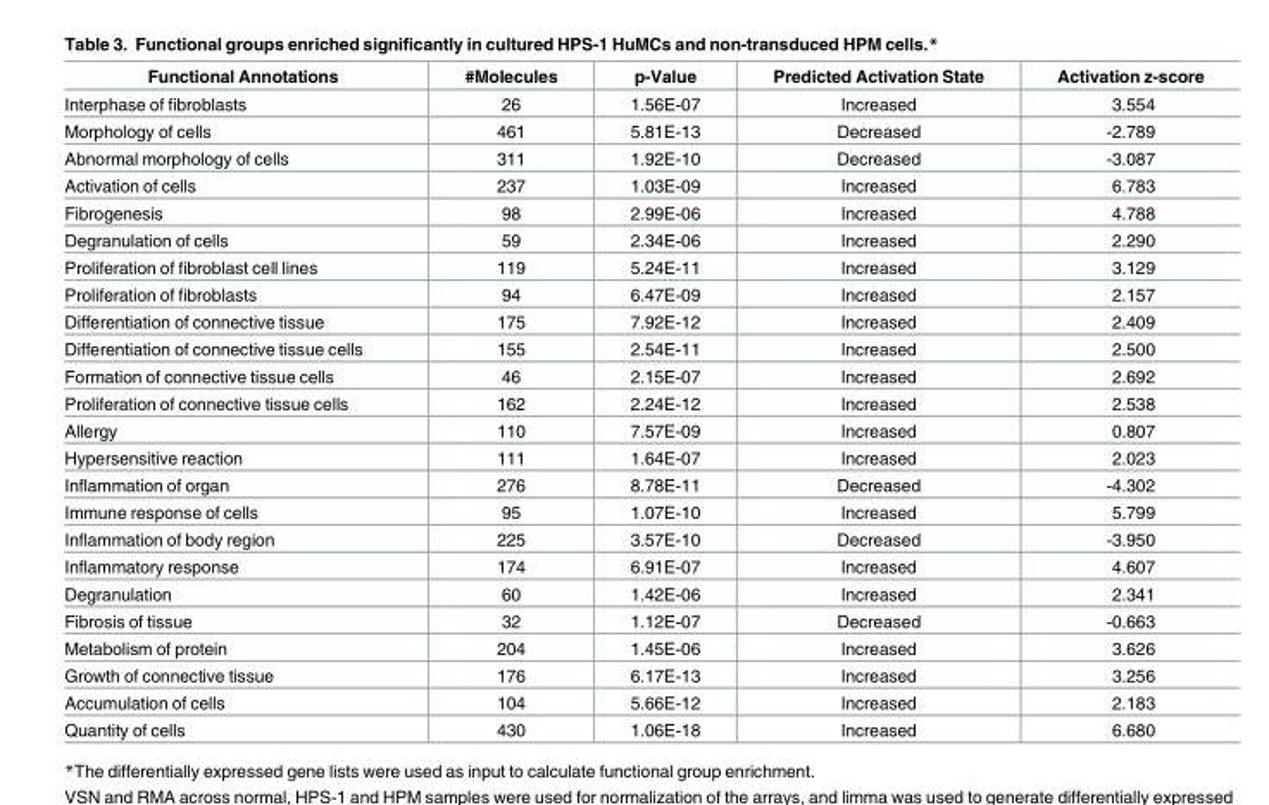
<table><thead><tr><td>Functional Annotations</td><td>#Molecules</td><td>p-Value</td><td>Predicted Activation State</td><td>Activation z-score</td></tr></thead><tbody><tr><td>Interphase of fibroblasts</td><td>26</td><td>1.56E-07</td><td>Increased</td><td>3.554</td></tr><tr><td>Morphology of cells</td><td>461</td><td>5.81E-13</td><td>Decreased</td><td>-2.789</td></tr><tr><td>Abnormal morphology of cells</td><td>311</td><td>1.92E-10</td><td>Decreased</td><td>-3.087</td></tr><tr><td>Activation of cells</td><td>237</td><td>1.03E-09</td><td>Increased</td><td>6.783</td></tr><tr><td>Fibrogenesis</td><td>98</td><td>2.99E-06</td><td>Increased</td><td>4.788</td></tr><tr><td>Degranulation of cells</td><td>59</td><td>2.34E-06</td><td>Increased</td><td>2.290</td></tr><tr><td>Proliferation of fibroblast cell lines</td><td>119</td><td>5.24E-11</td><td>Increased</td><td>3.129</td></tr><tr><td>Proliferation of fibroblasts</td><td>94</td><td>6.47E-09</td><td>Increased</td><td>2.157</td></tr><tr><td>Differentiation of connective tissue</td><td>175</td><td>7.92E-12</td><td>Increased</td><td>2.409</td></tr><tr><td>Differentiation of connective tissue cells</td><td>155</td><td>2.54E-11</td><td>Increased</td><td>2.500</td></tr><tr><td>Formation of connective tissue cells</td><td>46</td><td>2.15E-07</td><td>Increased</td><td>2.692</td></tr><tr><td>Proliferation of connective tissue cells</td><td>162</td><td>2.24E-12</td><td>Increased</td><td>2.538</td></tr><tr><td>Allergy</td><td>110</td><td>7.57E-09</td><td>Increased</td><td>0.807</td></tr><tr><td>Hypersensitive reaction</td><td>111</td><td>1.64E-07</td><td>Increased</td><td>2.023</td></tr><tr><td>Inflammation of organ</td><td>276</td><td>8.78E-11</td><td>Decreased</td><td>-4.302</td></tr><tr><td>Immune response of cells</td><td>95</td><td>1.07E-10</td><td>Increased</td><td>5.799</td></tr><tr><td>Inflammation of body region</td><td>225</td><td>3.57E-10</td><td>Decreased</td><td>-3.950</td></tr><tr><td>Inflammatory response</td><td>174</td><td>6.91E-07</td><td>Increased</td><td>4.607</td></tr><tr><td>Degranulation</td><td>60</td><td>1.42E-06</td><td>Increased</td><td>2.341</td></tr><tr><td>Fibrosis of tissue</td><td>32</td><td>1.12E-07</td><td>Decreased</td><td>-0.663</td></tr><tr><td>Metabolism of protein</td><td>204</td><td>1.45E-06</td><td>Increased</td><td>3.626</td></tr><tr><td>Growth of connective tissue</td><td>176</td><td>6.17E-13</td><td>Increased</td><td>3.256</td></tr><tr><td>Accumulation of cells</td><td>104</td><td>5.66E-12</td><td>Increased</td><td>2.183</td></tr><tr><td>Quantity of cells</td><td>430</td><td>1.06E-18</td><td>Increased</td><td>6.680</td></tr></tbody></table>